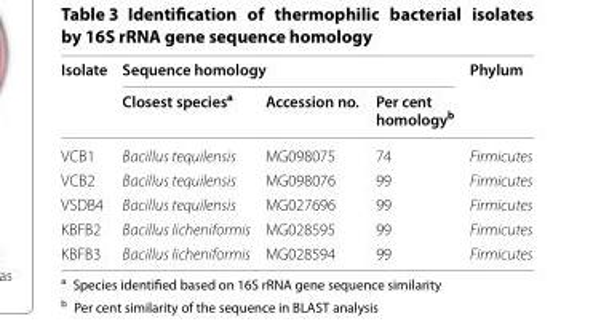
<table><thead><tr><td rowspan="2">Isolate</td><td colspan="3">Sequence homology</td><td rowspan="2">Phylum</td></tr><tr><td>Closest species<sup>a</sup></td><td>Accession no.</td><td>Per cent homology<sup>b</sup></td></tr></thead><tbody><tr><td>VCB1</td><td>Bacillus tequilensis</td><td>MG098075</td><td>74</td><td>Firmicutes</td></tr><tr><td>VCB2</td><td>Bacillus tequilensis</td><td>MG098076</td><td>99</td><td>Firmicutes</td></tr><tr><td>VSDB4</td><td>Bacillus tequilensis</td><td>MG027696</td><td>99</td><td>Firmicutes</td></tr><tr><td>KBFB2</td><td>Bacillus licheniformis</td><td>MG028595</td><td>99</td><td>Firmicutes</td></tr><tr><td>KBFB3</td><td>Bacillus licheniformis</td><td>MG028594</td><td>99</td><td>Firmicutes</td></tr></tbody></table>